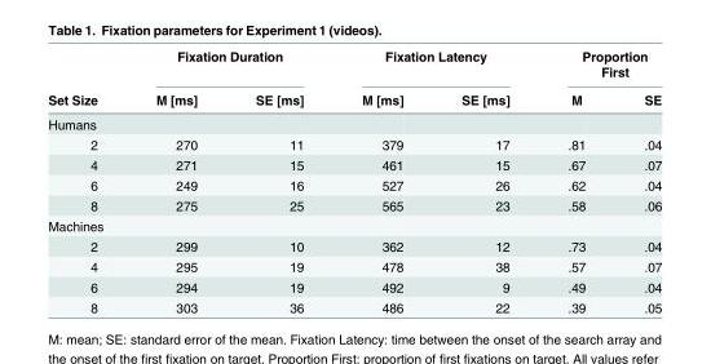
<table><thead><tr><td rowspan="2">Set Size</td><td colspan="2">Fixation Duration</td><td colspan="2">Fixation Latency</td><td colspan="2">Proportion First</td></tr><tr><td>M [ms]</td><td>SE [ms]</td><td>M [ms]</td><td>SE [ms]</td><td>M</td><td>SE</td></tr></thead><tbody><tr><td colspan="7">Humans</td></tr><tr><td>2</td><td>270</td><td>11</td><td>379</td><td>17</td><td>.81</td><td>.04</td></tr><tr><td>4</td><td>271</td><td>15</td><td>461</td><td>15</td><td>.67</td><td>.07</td></tr><tr><td>6</td><td>249</td><td>16</td><td>527</td><td>26</td><td>.62</td><td>.04</td></tr><tr><td>8</td><td>275</td><td>25</td><td>565</td><td>23</td><td>.58</td><td>.06</td></tr><tr><td colspan="7">Machines</td></tr><tr><td>2</td><td>299</td><td>10</td><td>362</td><td>12</td><td>.73</td><td>.04</td></tr><tr><td>4</td><td>295</td><td>19</td><td>478</td><td>38</td><td>.57</td><td>.07</td></tr><tr><td>6</td><td>294</td><td>19</td><td>492</td><td>9</td><td>.49</td><td>.04</td></tr><tr><td>8</td><td>303</td><td>36</td><td>486</td><td>22</td><td>.39</td><td>.05</td></tr></tbody></table>